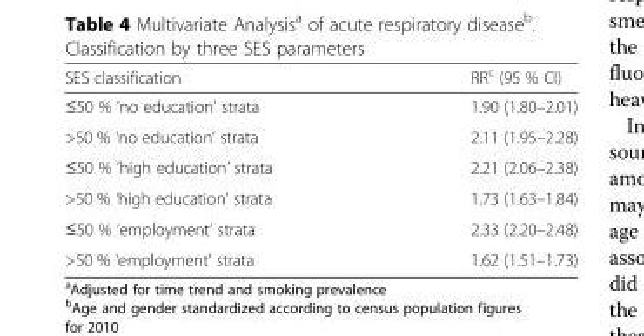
<table><thead><tr><td>SES classification</td><td>RR<sup>c</sup> (95 % CI)</td></tr></thead><tbody><tr><td>≤50 % ‘no education’ strata</td><td>1.90 (1.80–2.01)</td></tr><tr><td>&gt;50 % ‘no education’ strata</td><td>2.11 (1.95–2.28)</td></tr><tr><td>≤50 % ‘high education’ strata</td><td>2.21 (2.06–2.38)</td></tr><tr><td>&gt;50 % ‘high education’ strata</td><td>1.73 (1.63–1.84)</td></tr><tr><td>≤50 % ‘employment’ strata</td><td>2.33 (2.20–2.48)</td></tr><tr><td>&gt;50 % ‘employment’ strata</td><td>1.62 (1.51–1.73)</td></tr></tbody></table>